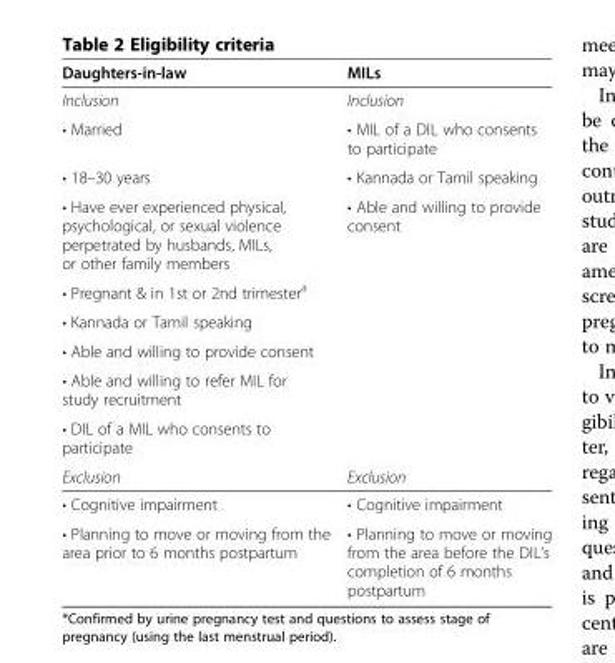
<table><thead><tr><td>Daughters-in-law</td><td>MILs</td></tr></thead><tbody><tr><td>Inclusion</td><td>Inclusion</td></tr><tr><td>• Married</td><td>• MIL of a DIL who consents to participate</td></tr><tr><td>• 18–30 years</td><td>• Kannada or Tamil speaking</td></tr><tr><td>• Have ever experienced physical, psychological, or sexual violence perpetrated by husbands, MILs, or other family members</td><td>• Able and willing to provide consent</td></tr><tr><td>• Pregnant &amp; in 1st or 2nd trimestera</td><td rowspan="5"></td></tr><tr><td>• Kannada or Tamil speaking</td></tr><tr><td>• Able and willing to provide consent</td></tr><tr><td>• Able and willing to refer MIL for study recruitment</td></tr><tr><td>• DIL of a MIL who consents to participate</td></tr><tr><td>Exclusion</td><td>Exclusion</td></tr><tr><td>• Cognitive impairment</td><td>• Cognitive impairment</td></tr><tr><td>• Planning to move or moving from the area prior to 6 months postpartum</td><td>• Planning to move or moving from the area before the DIL’s completion of 6 months postpartum</td></tr></tbody></table>